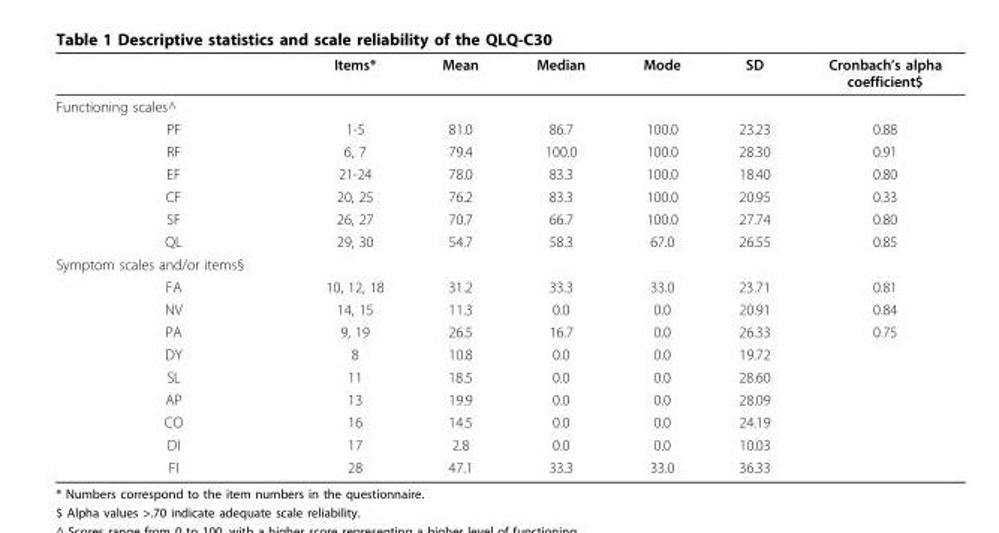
<table><thead><tr><td></td><td>Items*</td><td>Mean</td><td>Median</td><td>Mode</td><td>SD</td><td>Cronbach’s alpha coefficient$</td></tr></thead><tbody><tr><td colspan="7">Functioning scales^</td></tr><tr><td>PF</td><td>1-5</td><td>81.0</td><td>86.7</td><td>100.0</td><td>23.23</td><td>0.88</td></tr><tr><td>RF</td><td>6, 7</td><td>79.4</td><td>100.0</td><td>100.0</td><td>28.30</td><td>0.91</td></tr><tr><td>EF</td><td>21-24</td><td>78.0</td><td>83.3</td><td>100.0</td><td>18.40</td><td>0.80</td></tr><tr><td>CF</td><td>20, 25</td><td>76.2</td><td>83.3</td><td>100.0</td><td>20.95</td><td>0.33</td></tr><tr><td>SF</td><td>26, 27</td><td>70.7</td><td>66.7</td><td>100.0</td><td>27.74</td><td>0.80</td></tr><tr><td>QL</td><td>29, 30</td><td>54.7</td><td>58.3</td><td>67.0</td><td>26.55</td><td>0.85</td></tr><tr><td colspan="7">Symptom scales and/or items§</td></tr><tr><td>FA</td><td>10, 12, 18</td><td>31.2</td><td>33.3</td><td>33.0</td><td>23.71</td><td>0.81</td></tr><tr><td>NV</td><td>14, 15</td><td>11.3</td><td>0.0</td><td>0.0</td><td>20.91</td><td>0.84</td></tr><tr><td>PA</td><td>9, 19</td><td>26.5</td><td>16.7</td><td>0.0</td><td>26.33</td><td>0.75</td></tr><tr><td>DY</td><td>8</td><td>10.8</td><td>0.0</td><td>0.0</td><td>19.72</td><td></td></tr><tr><td>SL</td><td>11</td><td>18.5</td><td>0.0</td><td>0.0</td><td>28.60</td><td></td></tr><tr><td>AP</td><td>13</td><td>19.9</td><td>0.0</td><td>0.0</td><td>28.09</td><td></td></tr><tr><td>CO</td><td>16</td><td>14.5</td><td>0.0</td><td>0.0</td><td>24.19</td><td></td></tr><tr><td>DI</td><td>17</td><td>2.8</td><td>0.0</td><td>0.0</td><td>10.03</td><td></td></tr><tr><td>FI</td><td>28</td><td>47.1</td><td>33.3</td><td>33.0</td><td>36.33</td><td></td></tr></tbody></table>